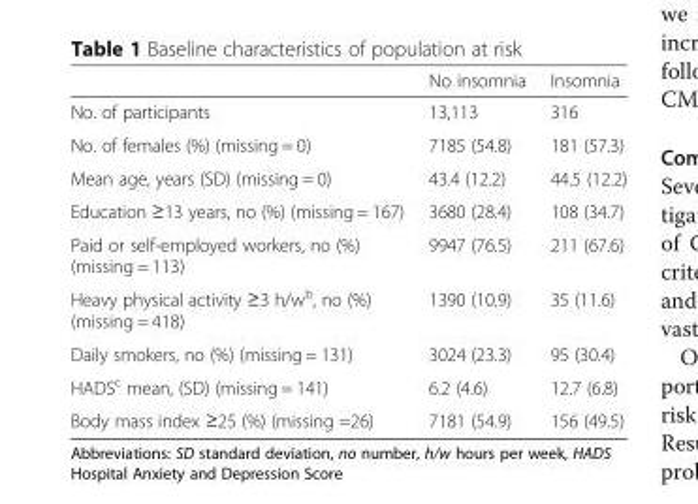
<table><thead><tr><td></td><td>No insomnia</td><td>Insomnia</td></tr></thead><tbody><tr><td>No. of participants</td><td>13,113</td><td>316</td></tr><tr><td>No. of females (%) (missing = 0)</td><td>7185 (54.8)</td><td>181 (57.3)</td></tr><tr><td>Mean age, years (SD) (missing = 0)</td><td>43.4 (12.2)</td><td>44.5 (12.2)</td></tr><tr><td>Education ≥13 years, no (%) (missing = 167)</td><td>3680 (28.4)</td><td>108 (34.7)</td></tr><tr><td>Paid or self-employed workers, no (%) (missing = 113)</td><td>9947 (76.5)</td><td>211 (67.6)</td></tr><tr><td>Heavy physical activity ≥3 h/w<sup>b</sup>, no (%) (missing = 418)</td><td>1390 (10.9)</td><td>35 (11.6)</td></tr><tr><td>Daily smokers, no (%) (missing = 131)</td><td>3024 (23.3)</td><td>95 (30.4)</td></tr><tr><td>HADS<sup>c</sup> mean, (SD) (missing = 141)</td><td>6.2 (4.6)</td><td>12.7 (6.8)</td></tr><tr><td>Body mass index ≥25 (%) (missing =26)</td><td>7181 (54.9)</td><td>156 (49.5)</td></tr></tbody></table>